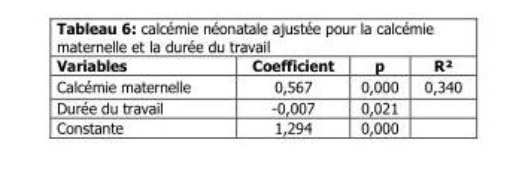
<table><thead><tr><td>Variables</td><td>Coefficient</td><td>p</td><td>R²</td></tr></thead><tbody><tr><td>Calcémie maternelle</td><td>0,567</td><td>0,000</td><td>0,340</td></tr><tr><td>Durée du travail</td><td>-0,007</td><td>0,021</td><td></td></tr><tr><td>Constante</td><td>1,294</td><td>0,000</td><td></td></tr></tbody></table>